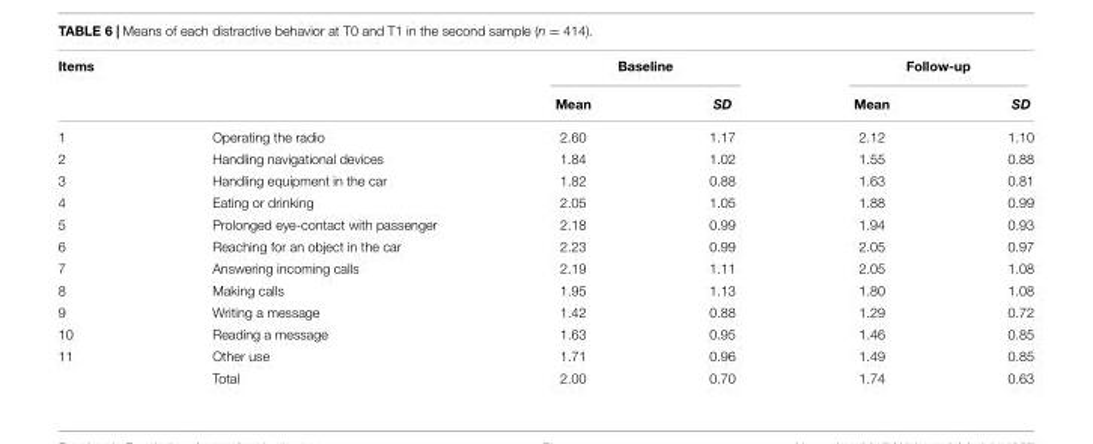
<table><thead><tr><td rowspan="2">Items</td><td rowspan="2"></td><td colspan="2">Baseline</td><td colspan="2">Follow-up</td></tr><tr><td>Mean</td><td>SD</td><td>Mean</td><td>SD</td></tr></thead><tbody><tr><td>1</td><td>Operating the radio</td><td>2.60</td><td>1.17</td><td>2.12</td><td>1.10</td></tr><tr><td>2</td><td>Handling navigational devices</td><td>1.84</td><td>1.02</td><td>1.55</td><td>0.88</td></tr><tr><td>3</td><td>Handling equipment in the car</td><td>1.82</td><td>0.88</td><td>1.63</td><td>0.81</td></tr><tr><td>4</td><td>Eating or drinking</td><td>2.05</td><td>1.05</td><td>1.88</td><td>0.99</td></tr><tr><td>5</td><td>Prolonged eye-contact with passenger</td><td>2.18</td><td>0.99</td><td>1.94</td><td>0.93</td></tr><tr><td>6</td><td>Reaching for an object in the car</td><td>2.23</td><td>0.99</td><td>2.05</td><td>0.97</td></tr><tr><td>7</td><td>Answering incoming calls</td><td>2.19</td><td>1.11</td><td>2.05</td><td>1.08</td></tr><tr><td>8</td><td>Making calls</td><td>1.95</td><td>1.13</td><td>1.80</td><td>1.08</td></tr><tr><td>9</td><td>Writing a message</td><td>1.42</td><td>0.88</td><td>1.29</td><td>0.72</td></tr><tr><td>10</td><td>Reading a message</td><td>1.63</td><td>0.95</td><td>1.46</td><td>0.85</td></tr><tr><td rowspan="2">11</td><td>Other use</td><td>1.71</td><td>0.96</td><td>1.49</td><td>0.85</td></tr><tr><td>Total</td><td>2.00</td><td>0.70</td><td>1.74</td><td>0.63</td></tr></tbody></table>